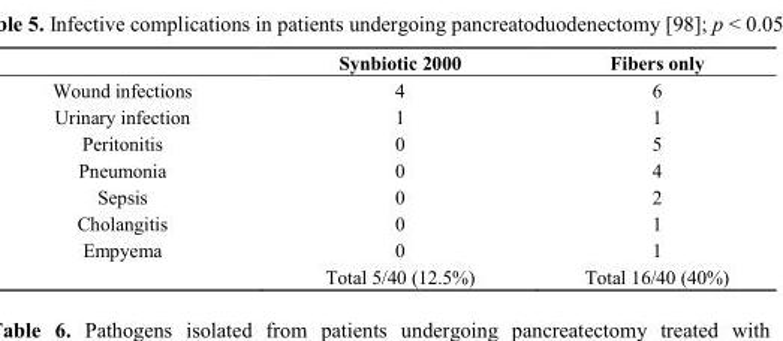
<table><thead><tr><td></td><td>Synbiotic 2000</td><td>Fibers only</td></tr></thead><tbody><tr><td>Wound infections</td><td>4</td><td>6</td></tr><tr><td>Urinary infection</td><td>1</td><td>1</td></tr><tr><td>Peritonitis</td><td>0</td><td>5</td></tr><tr><td>Pneumonia</td><td>0</td><td>4</td></tr><tr><td>Sepsis</td><td>0</td><td>2</td></tr><tr><td>Cholangitis</td><td>0</td><td>1</td></tr><tr><td rowspan="2">Empyema</td><td>0</td><td>1</td></tr><tr><td>Total 5/40 (12.5%)</td><td>Total 16/40 (40%)</td></tr></tbody></table>